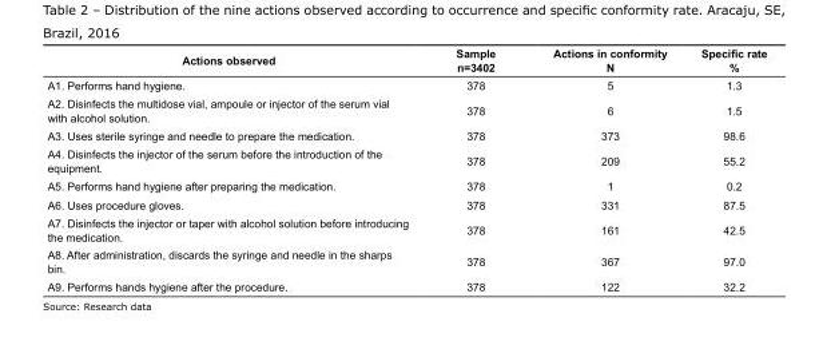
<table><tbody><tr><td>Actions observed</td><td>Sample n=3402</td><td>Actions in conformity N</td><td>Specific rate %</td></tr><tr><td>A1. Performs hand hygiene.</td><td>378</td><td>5</td><td>1.3</td></tr><tr><td>A2. Disinfects the multidose vial, ampoule or injector of the serum vial with alcohol solution.</td><td>378</td><td>6</td><td>1.5</td></tr><tr><td>A3. Uses sterile syringe and needle to prepare the medication.</td><td>378</td><td>373</td><td>98.6</td></tr><tr><td>A4. Disinfects the injector of the serum before the introduction of the equipment.</td><td>378</td><td>209</td><td>55.2</td></tr><tr><td>A5. Performs hand hygiene after preparing the medication.</td><td>378</td><td>1</td><td>0.2</td></tr><tr><td>A6. Uses procedure gloves.</td><td>378</td><td>331</td><td>87.5</td></tr><tr><td>A7. Disinfects the injector or taper with alcohol solution before introducing the medication.</td><td>378</td><td>161</td><td>42.5</td></tr><tr><td>A8. After administration, discards the syringe and needle in the sharps bin.</td><td>378</td><td>367</td><td>97.0</td></tr><tr><td>A9. Performs hands hygiene after the procedure.</td><td>378</td><td>122</td><td>32.2</td></tr></tbody></table>